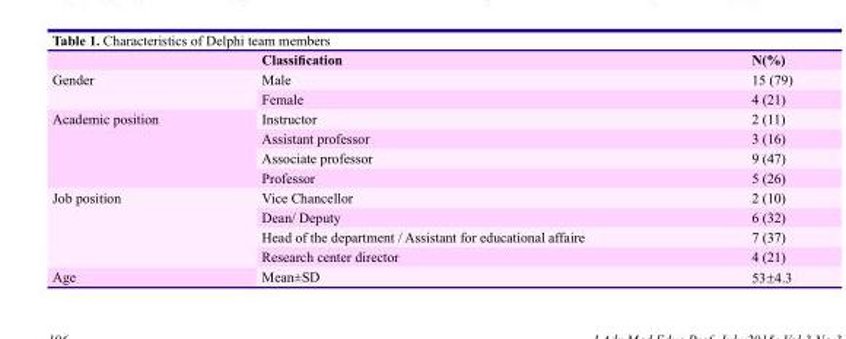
<table><thead><tr><td></td><td>Classification</td><td>N(%)</td></tr></thead><tbody><tr><td rowspan="2">Gender</td><td>Male</td><td>15 (79)</td></tr><tr><td>Female</td><td>4 (21)</td></tr><tr><td rowspan="4">Academic position</td><td>Instructor</td><td>2 (11)</td></tr><tr><td>Assistant professor</td><td>3 (16)</td></tr><tr><td>Associate professor</td><td>9 (47)</td></tr><tr><td>Professor</td><td>5 (26)</td></tr><tr><td rowspan="4">Job position</td><td>Vice Chancellor</td><td>2 (10)</td></tr><tr><td>Dean/ Deputy</td><td>6 (32)</td></tr><tr><td>Head of the department / Assistant for educational affaire</td><td>7 (37)</td></tr><tr><td>Research center director</td><td>4 (21)</td></tr><tr><td>Age</td><td>Mean±SD</td><td>53±4.3</td></tr></tbody></table>